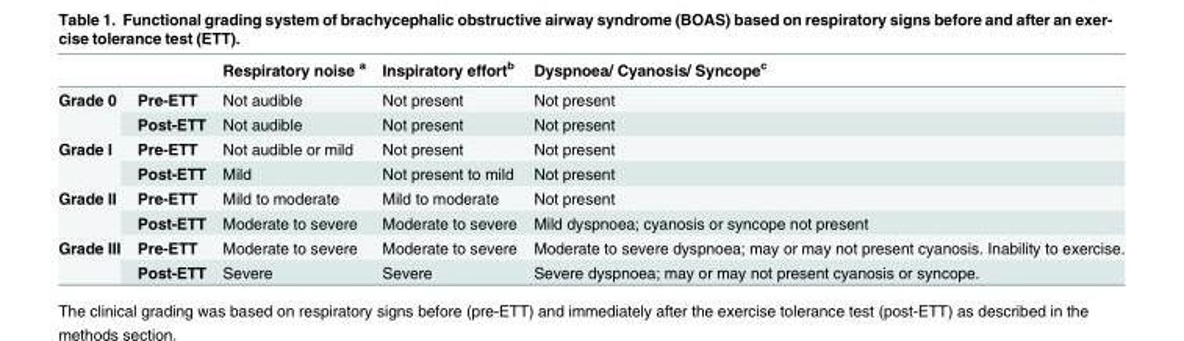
<table><thead><tr><td></td><td></td><td>Respiratory noise <sup>a</sup></td><td>Inspiratory effort<sup>b</sup></td><td>Dyspnoea/ Cyanosis/ Syncope<sup>c</sup></td></tr></thead><tbody><tr><td rowspan="2">Grade 0</td><td>Pre-ETT</td><td>Not audible</td><td>Not present</td><td>Not present</td></tr><tr><td>Post-ETT</td><td>Not audible</td><td>Not present</td><td>Not present</td></tr><tr><td rowspan="2">Grade I</td><td>Pre-ETT</td><td>Not audible or mild</td><td>Not present</td><td>Not present</td></tr><tr><td>Post-ETT</td><td>Mild</td><td>Not present to mild</td><td>Not present</td></tr><tr><td rowspan="2">Grade II</td><td>Pre-ETT</td><td>Mild to moderate</td><td>Mild to moderate</td><td>Not present</td></tr><tr><td>Post-ETT</td><td>Moderate to severe</td><td>Moderate to severe</td><td>Mild dyspnoea; cyanosis or syncope not present</td></tr><tr><td rowspan="2">Grade III</td><td>Pre-ETT</td><td>Moderate to severe</td><td>Moderate to severe</td><td>Moderate to severe dyspnoea; may or may not present cyanosis. Inability to exercise.</td></tr><tr><td>Post-ETT</td><td>Severe</td><td>Severe</td><td>Severe dyspnoea; may or may not present cyanosis or syncope.</td></tr></tbody></table>